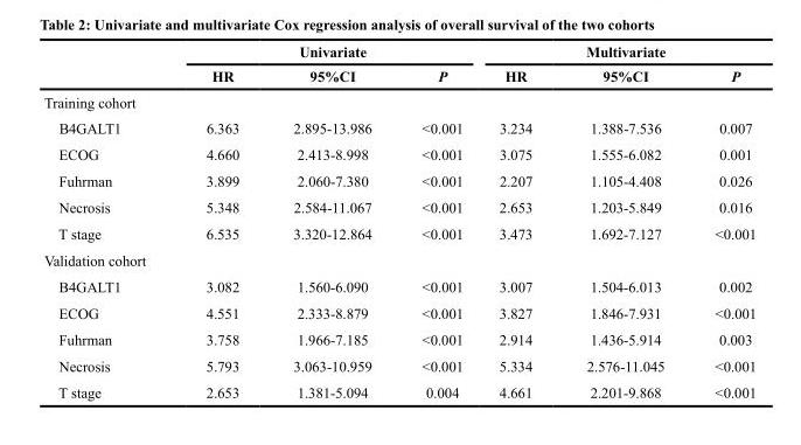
<table><thead><tr><td rowspan="2"></td><td colspan="3">Univariate</td><td colspan="3">Multivariate</td></tr><tr><td>HR</td><td>95%CI</td><td>P</td><td>HR</td><td>95%CI</td><td>P</td></tr></thead><tbody><tr><td colspan="7">Training cohort</td></tr><tr><td>B4GALT1</td><td>6.363</td><td>2.895-13.986</td><td>&lt;0.001</td><td>3.234</td><td>1.388-7.536</td><td>0.007</td></tr><tr><td>ECOG</td><td>4.660</td><td>2.413-8.998</td><td>&lt;0.001</td><td>3.075</td><td>1.555-6.082</td><td>0.001</td></tr><tr><td>Fuhrman</td><td>3.899</td><td>2.060-7.380</td><td>&lt;0.001</td><td>2.207</td><td>1.105-4.408</td><td>0.026</td></tr><tr><td>Necrosis</td><td>5.348</td><td>2.584-11.067</td><td>&lt;0.001</td><td>2.653</td><td>1.203-5.849</td><td>0.016</td></tr><tr><td>T stage</td><td>6.535</td><td>3.320-12.864</td><td>&lt;0.001</td><td>3.473</td><td>1.692-7.127</td><td>&lt;0.001</td></tr><tr><td colspan="7">Validation cohort</td></tr><tr><td>B4GALT1</td><td>3.082</td><td>1.560-6.090</td><td>&lt;0.001</td><td>3.007</td><td>1.504-6.013</td><td>0.002</td></tr><tr><td>ECOG</td><td>4.551</td><td>2.333-8.879</td><td>&lt;0.001</td><td>3.827</td><td>1.846-7.931</td><td>&lt;0.001</td></tr><tr><td>Fuhrman</td><td>3.758</td><td>1.966-7.185</td><td>&lt;0.001</td><td>2.914</td><td>1.436-5.914</td><td>0.003</td></tr><tr><td>Necrosis</td><td>5.793</td><td>3.063-10.959</td><td>&lt;0.001</td><td>5.334</td><td>2.576-11.045</td><td>&lt;0.001</td></tr><tr><td>T stage</td><td>2.653</td><td>1.381-5.094</td><td>0.004</td><td>4.661</td><td>2.201-9.868</td><td>&lt;0.001</td></tr></tbody></table>